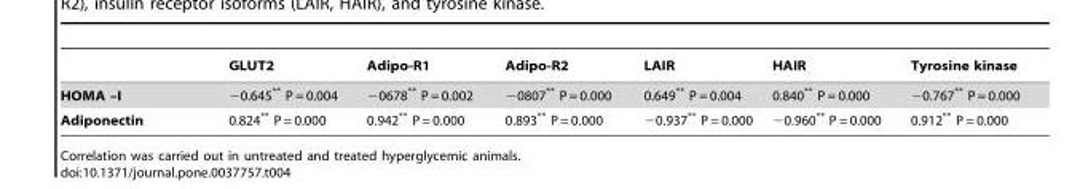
<table><thead><tr><td></td><td>GLUT2</td><td>Adipo-R1</td><td>Adipo-R2</td><td>LAIR</td><td>HAIR</td><td>Tyrosine kinase</td></tr></thead><tbody><tr><td>HOMA –I</td><td>−0.645** P = 0.004</td><td>−0678** P = 0.002</td><td>−0807** P = 0.000</td><td>0.649** P = 0.004</td><td>0.840** P = 0.000</td><td>−0.767** P = 0.000</td></tr><tr><td>Adiponectin</td><td>0.824** P = 0.000</td><td>0.942** P = 0.000</td><td>0.893** P = 0.000</td><td>−0.937** P = 0.000</td><td>−0.960** P = 0.000</td><td>0.912** P = 0.000</td></tr></tbody></table>